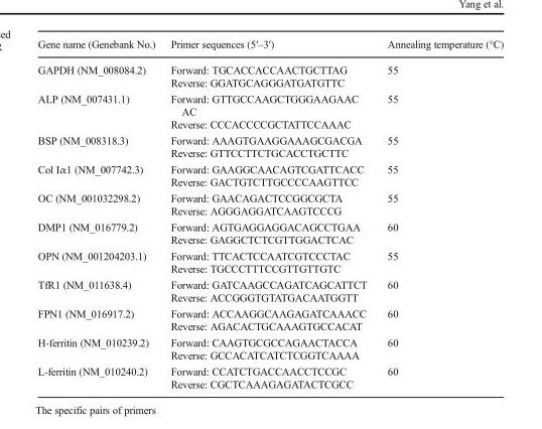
<table><thead><tr><td>Gene name (Genebank No.)</td><td>Primer sequences (5′–3′)</td><td>Annealing temperature (°C)</td></tr></thead><tbody><tr><td rowspan="2">GAPDH (NM_008084.2)</td><td>Forward: TGCACCACCAACTGCTTAG</td><td rowspan="2">55</td></tr><tr><td>Reverse: GGATGCAGGGATGATGTTC</td></tr><tr><td rowspan="2">ALP (NM_007431.1)</td><td>Forward: GTTGCCAAGCTGGGAAGAAC AC</td><td rowspan="2">55</td></tr><tr><td>Reverse: CCCACCCCGCTATTCCAAAC</td></tr><tr><td rowspan="2">BSP (NM_008318.3)</td><td>Forward: AAAGTGAAGGAAAGCGACGA</td><td rowspan="2">55</td></tr><tr><td>Reverse: GTTCCTTCTGCACCTGCTTC</td></tr><tr><td rowspan="2">Col Iα1 (NM_007742.3)</td><td>Forward: GAAGGCAACAGTCGATTCACC</td><td rowspan="2">55</td></tr><tr><td>Reverse: GACTGTCTTGCCCCAAGTTCC</td></tr><tr><td rowspan="2">OC (NM_001032298.2)</td><td>Forward: GAACAGACTCCGGCGCTA</td><td rowspan="2">55</td></tr><tr><td>Reverse: AGGGAGGATCAAGTCCCG</td></tr><tr><td rowspan="2">DMP1 (NM_016779.2)</td><td>Forward: AGTGAGGAGGACAGCCTGAA</td><td rowspan="2">60</td></tr><tr><td>Reverse: GAGGCTCTCGTTGGACTCAC</td></tr><tr><td rowspan="2">OPN (NM_001204203.1)</td><td>Forward: TTCACTCCAATCGTCCCTAC</td><td rowspan="2">55</td></tr><tr><td>Reverse: TGCCCTTTCCGTTGTTGTC</td></tr><tr><td rowspan="2">TfR1 (NM_011638.4)</td><td>Forward: GATCAAGCCAGATCAGCATTCT</td><td rowspan="2">60</td></tr><tr><td>Reverse: ACCGGGTGTATGACAATGGTT</td></tr><tr><td rowspan="2">FPN1 (NM_016917.2)</td><td>Forward: ACCAAGGCAAGAGATCAAACC</td><td rowspan="2">60</td></tr><tr><td>Reverse: AGACACTGCAAAGTGCCACAT</td></tr><tr><td rowspan="2">H-ferritin (NM_010239.2)</td><td>Forward: CAAGTGCGCCAGAACTACCA</td><td rowspan="2">60</td></tr><tr><td>Reverse: GCCACATCATCTCGGTCAAAA</td></tr><tr><td rowspan="2">L-ferritin (NM_010240.2)</td><td>Forward: CCATCTGACCAACCTCCGC</td><td rowspan="2">60</td></tr><tr><td>Reverse: CGCTCAAAGAGATACTCGCC</td></tr></tbody></table>